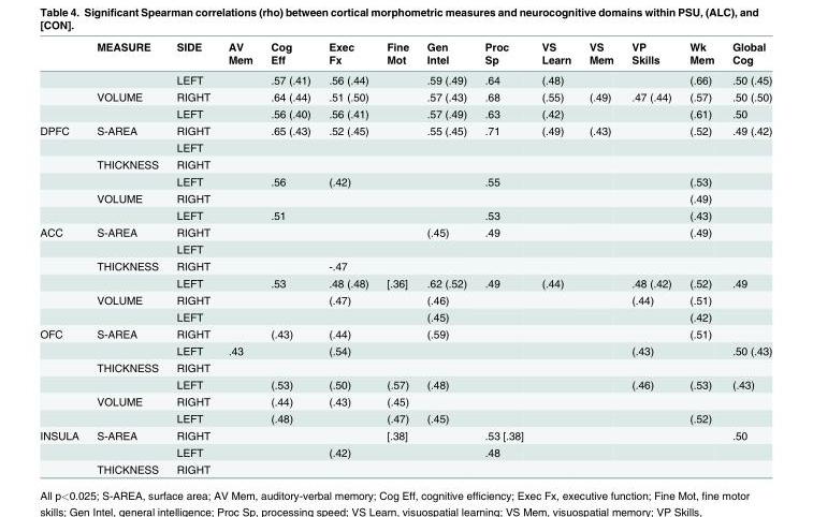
<table><thead><tr><td rowspan="2"></td><td rowspan="2">MEASURE</td><td rowspan="2">SIDE</td><td rowspan="2">AV Mem</td><td rowspan="2">Cog Eff</td><td rowspan="2">Exec Fx</td><td rowspan="2">Fine Mot</td><td rowspan="2">Gen Intel</td><td rowspan="2">Proc Sp</td><td rowspan="2">VS Learn</td><td rowspan="2">VS Mem</td><td rowspan="2">VP Skills</td><td rowspan="2">Wk Mem</td><td rowspan="2">Global Cog</td></tr><tr></tr></thead><tbody><tr><td></td><td></td><td>LEFT</td><td></td><td>.57 (.41)</td><td>.56 (.44)</td><td></td><td>.59 (.49)</td><td>.64</td><td>(.48)</td><td></td><td></td><td>(.66)</td><td>.50 (.45)</td></tr><tr><td></td><td>VOLUME</td><td>RIGHT</td><td></td><td>.64 (.44)</td><td>.51 (.50)</td><td></td><td>.57 (.43)</td><td>.68</td><td>(.55)</td><td>(.49)</td><td>.47 (.44)</td><td>(.57)</td><td>.50 (.50)</td></tr><tr><td></td><td></td><td>LEFT</td><td></td><td>.56 (.40)</td><td>.56 (.41)</td><td></td><td>.57 (.49)</td><td>.63</td><td>(.42)</td><td></td><td></td><td>(.61)</td><td>.50</td></tr><tr><td rowspan="6">DPFC</td><td>S-AREA</td><td>RIGHT</td><td></td><td>.65 (.43)</td><td>.52 (.45)</td><td></td><td>.55 (.45)</td><td>.71</td><td>(.49)</td><td>(.43)</td><td></td><td>(.52)</td><td>.49 (.42)</td></tr><tr><td></td><td>LEFT</td><td></td><td></td><td></td><td></td><td></td><td></td><td></td><td></td><td></td><td></td><td></td></tr><tr><td>THICKNESS</td><td>RIGHT</td><td></td><td></td><td></td><td></td><td></td><td></td><td></td><td></td><td></td><td></td><td></td></tr><tr><td></td><td>LEFT</td><td></td><td>.56</td><td>(.42)</td><td></td><td></td><td>.55</td><td></td><td></td><td></td><td>(.53)</td><td></td></tr><tr><td>VOLUME</td><td>RIGHT</td><td></td><td></td><td></td><td></td><td></td><td></td><td></td><td></td><td></td><td>(.49)</td><td></td></tr><tr><td></td><td>LEFT</td><td></td><td>.51</td><td></td><td></td><td></td><td>.53</td><td></td><td></td><td></td><td>(.43)</td><td></td></tr><tr><td rowspan="6">ACC</td><td>S-AREA</td><td>RIGHT</td><td></td><td></td><td></td><td></td><td>(.45)</td><td>.49</td><td></td><td></td><td></td><td>(.49)</td><td></td></tr><tr><td></td><td>LEFT</td><td></td><td></td><td></td><td></td><td></td><td></td><td></td><td></td><td></td><td></td><td></td></tr><tr><td>THICKNESS</td><td>RIGHT</td><td></td><td></td><td>-.47</td><td></td><td></td><td></td><td></td><td></td><td></td><td></td><td></td></tr><tr><td></td><td>LEFT</td><td></td><td>.53</td><td>.48 (.48)</td><td>[.36]</td><td>.62 (.52)</td><td>.49</td><td>(.44)</td><td></td><td>.48 (.42)</td><td>(.52)</td><td>.49</td></tr><tr><td>VOLUME</td><td>RIGHT</td><td></td><td></td><td>(.47)</td><td></td><td>(.46)</td><td></td><td></td><td></td><td>(.44)</td><td>(.51)</td><td></td></tr><tr><td></td><td>LEFT</td><td></td><td></td><td></td><td></td><td>(.45)</td><td></td><td></td><td></td><td></td><td>(.42)</td><td></td></tr><tr><td rowspan="6">OFC</td><td>S-AREA</td><td>RIGHT</td><td></td><td>(.43)</td><td>(.44)</td><td></td><td>(.59)</td><td></td><td></td><td></td><td></td><td>(.51)</td><td></td></tr><tr><td></td><td>LEFT</td><td>.43</td><td></td><td>(.54)</td><td></td><td></td><td></td><td></td><td></td><td>(.43)</td><td></td><td>.50 (.43)</td></tr><tr><td>THICKNESS</td><td>RIGHT</td><td></td><td></td><td></td><td></td><td></td><td></td><td></td><td></td><td></td><td></td><td></td></tr><tr><td></td><td>LEFT</td><td></td><td>(.53)</td><td>(.50)</td><td>(.57)</td><td>(.48)</td><td></td><td></td><td></td><td>(.46)</td><td>(.53)</td><td>(.43)</td></tr><tr><td>VOLUME</td><td>RIGHT</td><td></td><td>(.44)</td><td>(.43)</td><td>(.45)</td><td></td><td></td><td></td><td></td><td></td><td></td><td></td></tr><tr><td></td><td>LEFT</td><td></td><td>(.48)</td><td></td><td>(.47)</td><td>(.45)</td><td></td><td></td><td></td><td></td><td>(.52)</td><td></td></tr><tr><td rowspan="3">INSULA</td><td>S-AREA</td><td>RIGHT</td><td></td><td></td><td></td><td>[.38]</td><td></td><td>.53 [.38]</td><td></td><td></td><td></td><td></td><td>.50</td></tr><tr><td></td><td>LEFT</td><td></td><td></td><td>(.42)</td><td></td><td></td><td>.48</td><td></td><td></td><td></td><td></td><td></td></tr><tr><td>THICKNESS</td><td>RIGHT</td><td></td><td></td><td></td><td></td><td></td><td></td><td></td><td></td><td></td><td></td><td></td></tr></tbody></table>